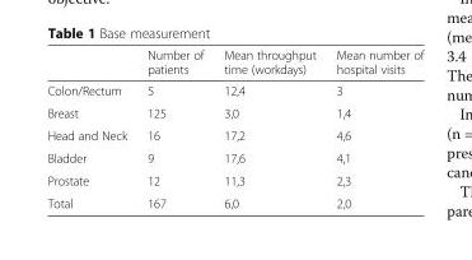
<table><thead><tr><td></td><td>Number of patients</td><td>Mean throughput time (workdays)</td><td>Mean number of hospital visits</td></tr></thead><tbody><tr><td>Colon/Rectum</td><td>5</td><td>12,4</td><td>3</td></tr><tr><td>Breast</td><td>125</td><td>3,0</td><td>1,4</td></tr><tr><td>Head and Neck</td><td>16</td><td>17,2</td><td>4,6</td></tr><tr><td>Bladder</td><td>9</td><td>17,6</td><td>4,1</td></tr><tr><td>Prostate</td><td>12</td><td>11,3</td><td>2,3</td></tr><tr><td>Total</td><td>167</td><td>6,0</td><td>2,0</td></tr></tbody></table>